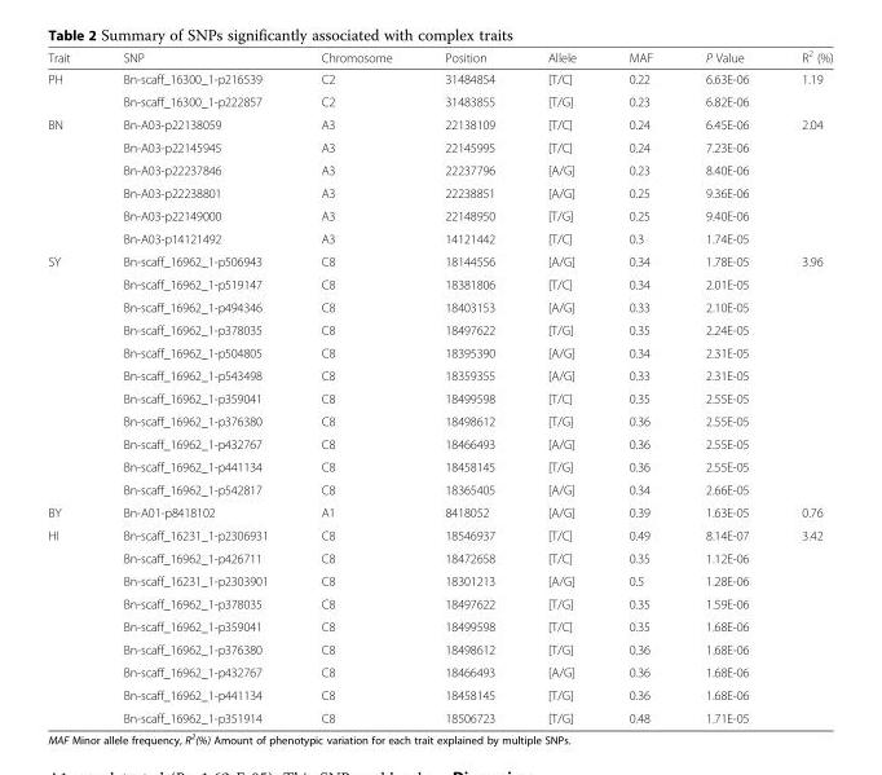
<table><thead><tr><td>Trait</td><td>SNP</td><td>Chromosome</td><td>Position</td><td>Allele</td><td>MAF</td><td>P Value</td><td>R<sup>2</sup> (%)</td></tr></thead><tbody><tr><td rowspan="2">PH</td><td>Bn-scaff_16300_1-p216539</td><td>C2</td><td>31484854</td><td>[T/C]</td><td>0.22</td><td>6.63E-06</td><td>1.19</td></tr><tr><td>Bn-scaff_16300_1-p222857</td><td>C2</td><td>31483855</td><td>[T/G]</td><td>0.23</td><td>6.82E-06</td><td></td></tr><tr><td rowspan="6">BN</td><td>Bn-A03-p22138059</td><td>A3</td><td>22138109</td><td>[T/C]</td><td>0.24</td><td>6.45E-06</td><td>2.04</td></tr><tr><td>Bn-A03-p22145945</td><td>A3</td><td>22145995</td><td>[T/C]</td><td>0.24</td><td>7.23E-06</td><td></td></tr><tr><td>Bn-A03-p22237846</td><td>A3</td><td>22237796</td><td>[A/G]</td><td>0.23</td><td>8.40E-06</td><td></td></tr><tr><td>Bn-A03-p22238801</td><td>A3</td><td>22238851</td><td>[A/G]</td><td>0.25</td><td>9.36E-06</td><td></td></tr><tr><td>Bn-A03-p22149000</td><td>A3</td><td>22148950</td><td>[T/G]</td><td>0.25</td><td>9.40E-06</td><td></td></tr><tr><td>Bn-A03-p14121492</td><td>A3</td><td>14121442</td><td>[T/C]</td><td>0.3</td><td>1.74E-05</td><td></td></tr><tr><td rowspan="11">SY</td><td>Bn-scaff_16962_1-p506943</td><td>C8</td><td>18144556</td><td>[A/G]</td><td>0.34</td><td>1.78E-05</td><td>3.96</td></tr><tr><td>Bn-scaff_16962_1-p519147</td><td>C8</td><td>18381806</td><td>[T/C]</td><td>0.34</td><td>2.01E-05</td><td></td></tr><tr><td>Bn-scaff_16962_1-p494346</td><td>C8</td><td>18403153</td><td>[A/G]</td><td>0.33</td><td>2.10E-05</td><td></td></tr><tr><td>Bn-scaff_16962_1-p378035</td><td>C8</td><td>18497622</td><td>[T/G]</td><td>0.35</td><td>2.24E-05</td><td></td></tr><tr><td>Bn-scaff_16962_1-p504805</td><td>C8</td><td>18395390</td><td>[A/G]</td><td>0.34</td><td>2.31E-05</td><td></td></tr><tr><td>Bn-scaff_16962_1-p543498</td><td>C8</td><td>18359355</td><td>[A/G]</td><td>0.33</td><td>2.31E-05</td><td></td></tr><tr><td>Bn-scaff_16962_1-p359041</td><td>C8</td><td>18499598</td><td>[T/C]</td><td>0.35</td><td>2.55E-05</td><td></td></tr><tr><td>Bn-scaff_16962_1-p376380</td><td>C8</td><td>18498612</td><td>[T/G]</td><td>0.36</td><td>2.55E-05</td><td></td></tr><tr><td>Bn-scaff_16962_1-p432767</td><td>C8</td><td>18466493</td><td>[A/G]</td><td>0.36</td><td>2.55E-05</td><td></td></tr><tr><td>Bn-scaff_16962_1-p441134</td><td>C8</td><td>18458145</td><td>[T/G]</td><td>0.36</td><td>2.55E-05</td><td></td></tr><tr><td>Bn-scaff_16962_1-p542817</td><td>C8</td><td>18365405</td><td>[A/G]</td><td>0.34</td><td>2.66E-05</td><td></td></tr><tr><td>BY</td><td>Bn-A01-p8418102</td><td>A1</td><td>8418052</td><td>[A/G]</td><td>0.39</td><td>1.63E-05</td><td>0.76</td></tr><tr><td rowspan="9">HI</td><td>Bn-scaff_16231_1-p2306931</td><td>C8</td><td>18546937</td><td>[T/C]</td><td>0.49</td><td>8.14E-07</td><td>3.42</td></tr><tr><td>Bn-scaff_16962_1-p426711</td><td>C8</td><td>18472658</td><td>[T/C]</td><td>0.35</td><td>1.12E-06</td><td></td></tr><tr><td>Bn-scaff_16231_1-p2303901</td><td>C8</td><td>18301213</td><td>[A/G]</td><td>0.5</td><td>1.28E-06</td><td></td></tr><tr><td>Bn-scaff_16962_1-p378035</td><td>C8</td><td>18497622</td><td>[T/G]</td><td>0.35</td><td>1.59E-06</td><td></td></tr><tr><td>Bn-scaff_16962_1-p359041</td><td>C8</td><td>18499598</td><td>[T/C]</td><td>0.35</td><td>1.68E-06</td><td></td></tr><tr><td>Bn-scaff_16962_1-p376380</td><td>C8</td><td>18498612</td><td>[T/G]</td><td>0.36</td><td>1.68E-06</td><td></td></tr><tr><td>Bn-scaff_16962_1-p432767</td><td>C8</td><td>18466493</td><td>[A/G]</td><td>0.36</td><td>1.68E-06</td><td></td></tr><tr><td>Bn-scaff_16962_1-p441134</td><td>C8</td><td>18458145</td><td>[T/G]</td><td>0.36</td><td>1.68E-06</td><td></td></tr><tr><td>Bn-scaff_16962_1-p351914</td><td>C8</td><td>18506723</td><td>[T/G]</td><td>0.48</td><td>1.71E-05</td><td></td></tr></tbody></table>